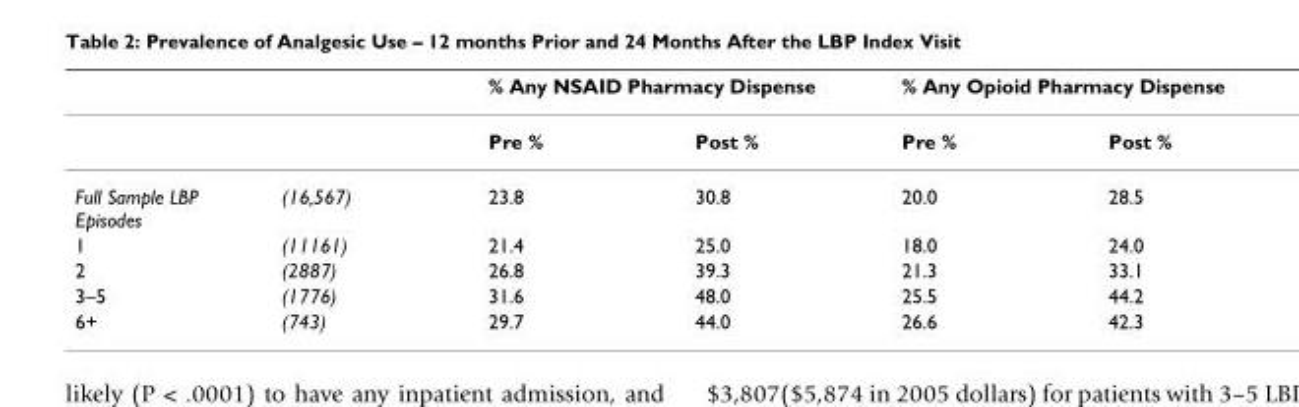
<table><thead><tr><td rowspan="2"></td><td rowspan="2"></td><td colspan="2">% Any NSAID Pharmacy Dispense</td><td colspan="2">% Any Opioid Pharmacy Dispense</td></tr><tr><td>Pre %</td><td>Post %</td><td>Pre %</td><td>Post %</td></tr></thead><tbody><tr><td>Full Sample LBP Episodes</td><td>(16,567)</td><td>23.8</td><td>30.8</td><td>20.0</td><td>28.5</td></tr><tr><td>1</td><td>(11161)</td><td>21.4</td><td>25.0</td><td>18.0</td><td>24.0</td></tr><tr><td>2</td><td>(2887)</td><td>26.8</td><td>39.3</td><td>21.3</td><td>33.1</td></tr><tr><td>3–5</td><td>(1776)</td><td>31.6</td><td>48.0</td><td>25.5</td><td>44.2</td></tr><tr><td>6+</td><td>(743)</td><td>29.7</td><td>44.0</td><td>26.6</td><td>42.3</td></tr></tbody></table>